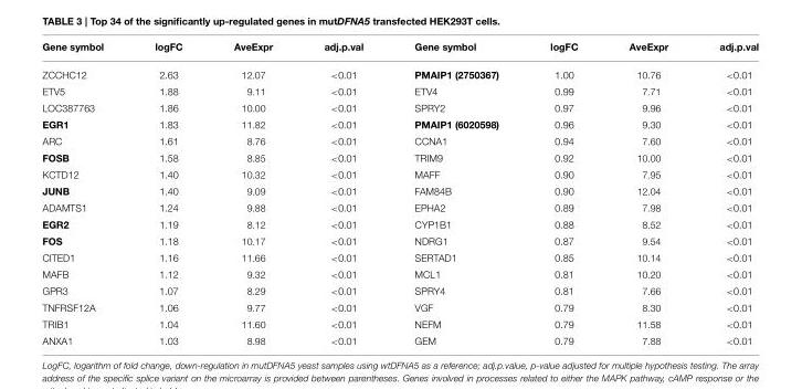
<table><thead><tr><td>Gene symbol</td><td>logFC</td><td>AveExpr</td><td>adj.p.val</td><td>Gene symbol</td><td>logFC</td><td>AveExpr</td><td>adj.p.val</td></tr></thead><tbody><tr><td>ZCCHC12</td><td>2.63</td><td>12.07</td><td>&lt;0.01</td><td>PMAIP1 (2750367)</td><td>1.00</td><td>10.76</td><td>&lt;0.01</td></tr><tr><td>ETV5</td><td>1.88</td><td>9.11</td><td>&lt;0.01</td><td>ETV4</td><td>0.99</td><td>7.71</td><td>&lt;0.01</td></tr><tr><td>LOC387763</td><td>1.86</td><td>10.00</td><td>&lt;0.01</td><td>SPRY2</td><td>0.97</td><td>9.96</td><td>&lt;0.01</td></tr><tr><td>EGR1</td><td>1.83</td><td>11.82</td><td>&lt;0.01</td><td>PMAIP1 (6020598)</td><td>0.96</td><td>9.30</td><td>&lt;0.01</td></tr><tr><td>ARC</td><td>1.61</td><td>8.76</td><td>&lt;0.01</td><td>CCNA1</td><td>0.94</td><td>7.60</td><td>&lt;0.01</td></tr><tr><td>FOSB</td><td>1.58</td><td>8.85</td><td>&lt;0.01</td><td>TRIM9</td><td>0.92</td><td>10.00</td><td>&lt;0.01</td></tr><tr><td>KCTD12</td><td>1.40</td><td>10.32</td><td>&lt;0.01</td><td>MAFF</td><td>0.90</td><td>7.95</td><td>&lt;0.01</td></tr><tr><td>JUNB</td><td>1.40</td><td>9.09</td><td>&lt;0.01</td><td>FAM84B</td><td>0.90</td><td>12.04</td><td>&lt;0.01</td></tr><tr><td>ADAMTS1</td><td>1.24</td><td>9.88</td><td>&lt;0.01</td><td>EPHA2</td><td>0.89</td><td>7.98</td><td>&lt;0.01</td></tr><tr><td>EGR2</td><td>1.19</td><td>8.12</td><td>&lt;0.01</td><td>CYP1B1</td><td>0.88</td><td>8.52</td><td>&lt;0.01</td></tr><tr><td>FOS</td><td>1.18</td><td>10.17</td><td>&lt;0.01</td><td>NDRG1</td><td>0.87</td><td>9.54</td><td>&lt;0.01</td></tr><tr><td>CITED1</td><td>1.16</td><td>11.66</td><td>&lt;0.01</td><td>SERTAD1</td><td>0.85</td><td>10.14</td><td>&lt;0.01</td></tr><tr><td>MAFB</td><td>1.12</td><td>9.32</td><td>&lt;0.01</td><td>MCL1</td><td>0.81</td><td>10.20</td><td>&lt;0.01</td></tr><tr><td>GPR3</td><td>1.07</td><td>8.29</td><td>&lt;0.01</td><td>SPRY4</td><td>0.81</td><td>7.66</td><td>&lt;0.01</td></tr><tr><td>TNFRSF12A</td><td>1.06</td><td>9.77</td><td>&lt;0.01</td><td>VGF</td><td>0.79</td><td>8.30</td><td>&lt;0.01</td></tr><tr><td>TRIB1</td><td>1.04</td><td>11.60</td><td>&lt;0.01</td><td>NEFM</td><td>0.79</td><td>11.58</td><td>&lt;0.01</td></tr><tr><td>ANXA1</td><td>1.03</td><td>8.98</td><td>&lt;0.01</td><td>GEM</td><td>0.79</td><td>7.88</td><td>&lt;0.01</td></tr></tbody></table>